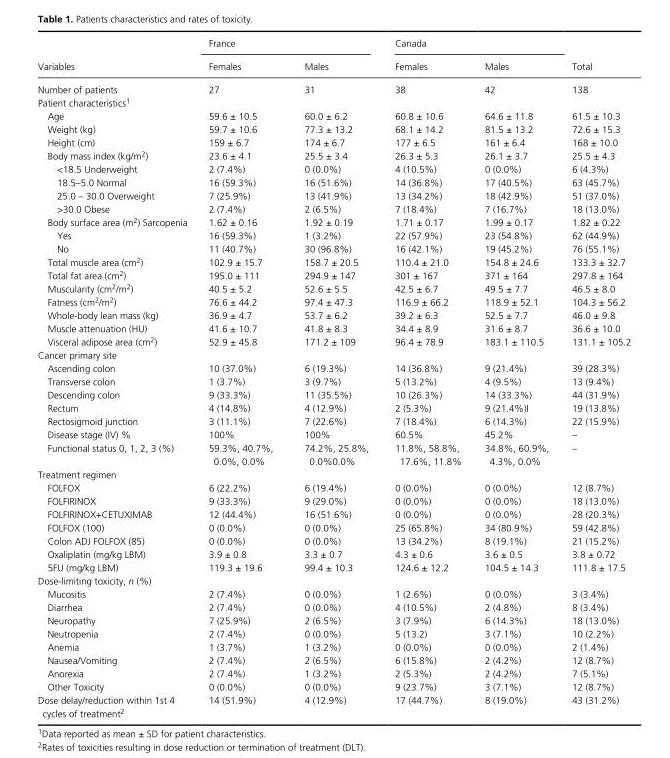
<table><thead><tr><td rowspan="2">Variables</td><td colspan="2">France</td><td colspan="2">Canada</td><td rowspan="2">Total</td></tr><tr><td>Females</td><td>Males</td><td>Females</td><td>Males</td></tr></thead><tbody><tr><td>Number of patients</td><td>27</td><td>31</td><td>38</td><td>42</td><td>138</td></tr><tr><td colspan="6">Patient characteristics1</td></tr><tr><td>Age</td><td>59.6 ± 10.5</td><td>60.0 ± 6.2</td><td>60.8 ± 10.6</td><td>64.6 ± 11.8</td><td>61.5 ± 10.3</td></tr><tr><td>Weight (kg)</td><td>59.7 ± 10.6</td><td>77.3 ± 13.2</td><td>68.1 ± 14.2</td><td>81.5 ± 13.2</td><td>72.6 ± 15.3</td></tr><tr><td>Height (cm)</td><td>159 ± 6.7</td><td>174 ± 6.7</td><td>177 ± 6.5</td><td>161 ± 6.4</td><td>168 ± 10.0</td></tr><tr><td>Body mass index (kg/m<sup>2</sup>)</td><td>23.6 ± 4.1</td><td>25.5 ± 3.4</td><td>26.3 ± 5.3</td><td>26.1 ± 3.7</td><td>25.5 ± 4.3</td></tr><tr><td>&lt;18.5 Underweight</td><td>2 (7.4%)</td><td>0 (0.0%)</td><td>4 (10.5%)</td><td>0 (0.0%)</td><td>6 (4.3%)</td></tr><tr><td>18.5–5.0 Normal</td><td>16 (59.3%)</td><td>16 (51.6%)</td><td>14 (36.8%)</td><td>17 (40.5%)</td><td>63 (45.7%)</td></tr><tr><td>25.0 – 30.0 Overweight</td><td>7 (25.9%)</td><td>13 (41.9%)</td><td>13 (34.2%)</td><td>18 (42.9%)</td><td>51 (37.0%)</td></tr><tr><td>&gt;30.0 Obese</td><td>2 (7.4%)</td><td>2 (6.5%)</td><td>7 (18.4%)</td><td>7 (16.7%)</td><td>18 (13.0%)</td></tr><tr><td>Body surface area (m<sup>2</sup>) Sarcopenia</td><td>1.62 ± 0.16</td><td>1.92 ± 0.19</td><td>1.71 ± 0.17</td><td>1.99 ± 0.17</td><td>1.82 ± 0.22</td></tr><tr><td>Yes</td><td>16 (59.3%)</td><td>1 (3.2%)</td><td>22 (57.9%)</td><td>23 (54.8%)</td><td>62 (44.9%)</td></tr><tr><td>No</td><td>11 (40.7%)</td><td>30 (96.8%)</td><td>16 (42.1%)</td><td>19 (45.2%)</td><td>76 (55.1%)</td></tr><tr><td>Total muscle area (cm<sup>2</sup>)</td><td>102.9 ± 15.7</td><td>158.7 ± 20.5</td><td>110.4 ± 21.0</td><td>154.8 ± 24.6</td><td>133.3 ± 32.7</td></tr><tr><td>Total fat area (cm<sup>2</sup>)</td><td>195.0 ± 111</td><td>294.9 ± 147</td><td>301 ± 167</td><td>371 ± 164</td><td>297.8 ± 164</td></tr><tr><td>Muscularity (cm<sup>2</sup>/m<sup>2</sup>)</td><td>40.5 ± 5.2</td><td>52.6 ± 5.5</td><td>42.5 ± 6.7</td><td>49.5 ± 7.7</td><td>46.5 ± 8.0</td></tr><tr><td>Fatness (cm<sup>2</sup>/m<sup>2</sup>)</td><td>76.6 ± 44.2</td><td>97.4 ± 47.3</td><td>116.9 ± 66.2</td><td>118.9 ± 52.1</td><td>104.3 ± 56.2</td></tr><tr><td>Whole- body lean mass (kg)</td><td>36.9 ± 4.7</td><td>53.7 ± 6.2</td><td>39.2 ± 6.3</td><td>52.5 ± 7.7</td><td>46.0 ± 9.8</td></tr><tr><td>Muscle attenuation (HU)</td><td>41.6 ± 10.7</td><td>41.8 ± 8.3</td><td>34.4 ± 8.9</td><td>31.6 ± 8.7</td><td>36.6 ± 10.0</td></tr><tr><td>Visceral adipose area (cm<sup>2</sup>)</td><td>52.9 ± 45.8</td><td>171.2 ± 109</td><td>96.4 ± 78.9</td><td>183.1 ± 110.5</td><td>131.1 ± 105.2</td></tr><tr><td colspan="6">Cancer primary site</td></tr><tr><td>Ascending colon</td><td>10 (37.0%)</td><td>6 (19.3%)</td><td>14 (36.8%)</td><td>9 (21.4%)</td><td>39 (28.3%)</td></tr><tr><td>Transverse colon</td><td>1 (3.7%)</td><td>3 (9.7%)</td><td>5 (13.2%)</td><td>4 (9.5%)</td><td>13 (9.4%)</td></tr><tr><td>Descending colon</td><td>9 (33.3%)</td><td>11 (35.5%)</td><td>10 (26.3%)</td><td>14 (33.3%)</td><td>44 (31.9%)</td></tr><tr><td>Rectum</td><td>4 (14.8%)</td><td>4 (12.9%)</td><td>2 (5.3%)</td><td>9 (21.4%)|</td><td>19 (13.8%)</td></tr><tr><td>Rectosigmoid junction</td><td>3 (11.1%)</td><td>7 (22.6%)</td><td>7 (18.4%)</td><td>6 (14.3%)</td><td>22 (15.9%)</td></tr><tr><td>Disease stage (IV) %</td><td>100%</td><td>100%</td><td>60.5%</td><td>45.2%</td><td>–</td></tr><tr><td>Functional status 0, 1, 2, 3 (%)</td><td>59.3%, 40.7%, 0.0%, 0.0%</td><td>74.2%, 25.8%, 0.0%0.0%</td><td>11.8%, 58.8%, 17.6%, 11.8%</td><td>34.8%, 60.9%, 4.3%, 0.0%</td><td>–</td></tr><tr><td colspan="6">Treatment regimen</td></tr><tr><td>FOLFOX</td><td>6 (22.2%)</td><td>6 (19.4%)</td><td>0 (0.0%)</td><td>0 (0.0%)</td><td>12 (8.7%)</td></tr><tr><td>FOLFIRINOX</td><td>9 (33.3%)</td><td>9 (29.0%)</td><td>0 (0.0%)</td><td>0 (0.0%)</td><td>18 (13.0%)</td></tr><tr><td>FOLFIRINOX+CETUXIMAB</td><td>12 (44.4%)</td><td>16 (51.6%)</td><td>0 (0.0%)</td><td>0 (0.0%)</td><td>28 (20.3%)</td></tr><tr><td>FOLFOX (100)</td><td>0 (0.0%)</td><td>0 (0.0%)</td><td>25 (65.8%)</td><td>34 (80.9%)</td><td>59 (42.8%)</td></tr><tr><td>Colon ADJ FOLFOX (85)</td><td>0 (0.0%)</td><td>0 (0.0%)</td><td>13 (34.2%)</td><td>8 (19.1%)</td><td>21 (15.2%)</td></tr><tr><td>Oxaliplatin (mg/kg LBM)</td><td>3.9 ± 0.8</td><td>3.3 ± 0.7</td><td>4.3 ± 0.6</td><td>3.6 ± 0.5</td><td>3.8 ± 0.72</td></tr><tr><td>5FU (mg/kg LBM)</td><td>119.3 ± 19.6</td><td>99.4 ± 10.3</td><td>124.6 ± 12.2</td><td>104.5 ± 14.3</td><td>111.8 ± 17.5</td></tr><tr><td colspan="6">Dose- limiting toxicity, n (%)</td></tr><tr><td>Mucositis</td><td>2 (7.4%)</td><td>0 (0.0%)</td><td>1 (2.6%)</td><td>0 (0.0%)</td><td>3 (3.4%)</td></tr><tr><td>Diarrhea</td><td>2 (7.4%)</td><td>0 (0.0%)</td><td>4 (10.5%)</td><td>2 (4.8%)</td><td>8 (3.4%)</td></tr><tr><td>Neuropathy</td><td>7 (25.9%)</td><td>2 (6.5%)</td><td>3 (7.9%)</td><td>6 (14.3%)</td><td>18 (13.0%)</td></tr><tr><td>Neutropenia</td><td>2 (7.4%)</td><td>0 (0.0%)</td><td>5 (13.2)</td><td>3 (7.1%)</td><td>10 (2.2%)</td></tr><tr><td>Anemia</td><td>1 (3.7%)</td><td>1 (3.2%)</td><td>0 (0.0%)</td><td>0 (0.0%)</td><td>2 (1.4%)</td></tr><tr><td>Nausea/Vomiting</td><td>2 (7.4%)</td><td>2 (6.5%)</td><td>6 (15.8%)</td><td>2 (4.2%)</td><td>12 (8.7%)</td></tr><tr><td>Anorexia</td><td>2 (7.4%)</td><td>1 (3.2%)</td><td>2 (5.3%)</td><td>2 (4.2%)</td><td>7 (5.1%)</td></tr><tr><td>Other Toxicity</td><td>0 (0.0%)</td><td>0 (0.0%)</td><td>9 (23.7%)</td><td>3 (7.1%)</td><td>12 (8.7%)</td></tr><tr><td>Dose delay/reduction within 1st 4 cycles of treatment2</td><td>14 (51.9%)</td><td>4 (12.9%)</td><td>17 (44.7%)</td><td>8 (19.0%)</td><td>43 (31.2%)</td></tr></tbody></table>